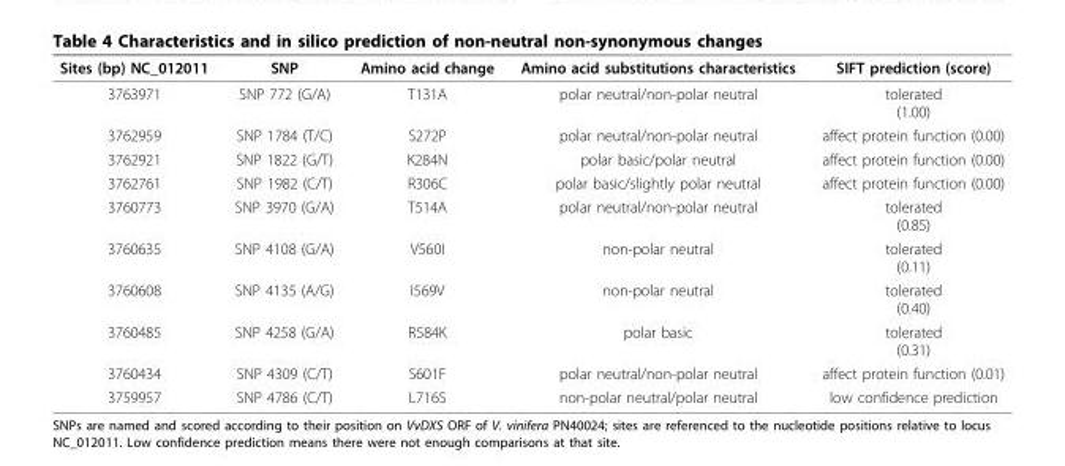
<table><thead><tr><td>Sites (bp) NC_012011</td><td>SNP</td><td>Amino acid change</td><td>Amino acid substitutions characteristics</td><td>SIFT prediction (score)</td></tr></thead><tbody><tr><td>3763971</td><td>SNP 772 (G/A)</td><td>T131A</td><td>polar neutral/non-polar neutral</td><td>tolerated (1.00)</td></tr><tr><td>3762959</td><td>SNP 1784 (T/C)</td><td>S272P</td><td>polar neutral/non-polar neutral</td><td>affect protein function (0.00)</td></tr><tr><td>3762921</td><td>SNP 1822 (G/T)</td><td>K284N</td><td>polar basic/polar neutral</td><td>affect protein function (0.00)</td></tr><tr><td>3762761</td><td>SNP 1982 (C/T)</td><td>R306C</td><td>polar basic/slightly polar neutral</td><td>affect protein function (0.00)</td></tr><tr><td>3760773</td><td>SNP 3970 (G/A)</td><td>T514A</td><td>polar neutral/non-polar neutral</td><td>tolerated (0.85)</td></tr><tr><td>3760635</td><td>SNP 4108 (G/A)</td><td>V560I</td><td>non-polar neutral</td><td>tolerated (0.11)</td></tr><tr><td>3760608</td><td>SNP 4135 (A/G)</td><td>I569V</td><td>non-polar neutral</td><td>tolerated (0.40)</td></tr><tr><td>3760485</td><td>SNP 4258 (G/A)</td><td>R584K</td><td>polar basic</td><td>tolerated (0.31)</td></tr><tr><td>3760434</td><td>SNP 4309 (C/T)</td><td>S601F</td><td>polar neutral/non-polar neutral</td><td>affect protein function (0.01)</td></tr><tr><td>3759957</td><td>SNP 4786 (C/T)</td><td>L716S</td><td>non-polar neutral/polar neutral</td><td>low confidence prediction</td></tr></tbody></table>